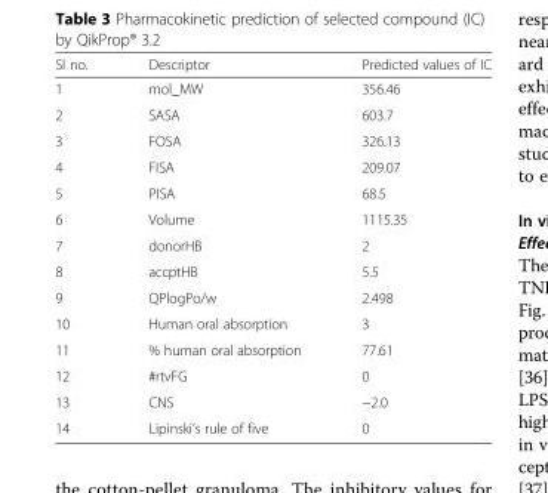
<table><thead><tr><td>Sl no.</td><td>Descriptor</td><td>Predicted values of IC</td></tr></thead><tbody><tr><td>1</td><td>mol_MW</td><td>356.46</td></tr><tr><td>2</td><td>SASA</td><td>603.7</td></tr><tr><td>3</td><td>FOSA</td><td>326.13</td></tr><tr><td>4</td><td>FISA</td><td>209.07</td></tr><tr><td>5</td><td>PISA</td><td>68.5</td></tr><tr><td>6</td><td>Volume</td><td>1115.35</td></tr><tr><td>7</td><td>donorHB</td><td>2</td></tr><tr><td>8</td><td>accptHB</td><td>5.5</td></tr><tr><td>9</td><td>QPlogPo/w</td><td>2.498</td></tr><tr><td>10</td><td>Human oral absorption</td><td>3</td></tr><tr><td>11</td><td>% human oral absorption</td><td>77.61</td></tr><tr><td>12</td><td>#rtvFG</td><td>0</td></tr><tr><td>13</td><td>CNS</td><td>−2.0</td></tr><tr><td>14</td><td>Lipinski’s rule of five</td><td>0</td></tr></tbody></table>